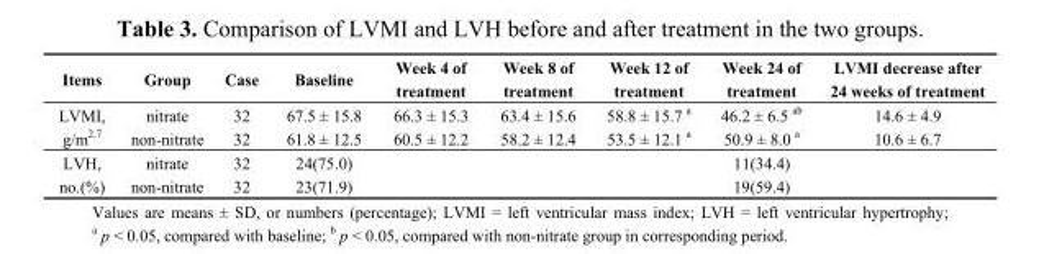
<table><thead><tr><td>Items</td><td>Group</td><td>Case</td><td>Baseline</td><td>Week 4 of treatment</td><td>Week 8 of treatment</td><td>Week 12 of treatment</td><td>Week 24 of treatment</td><td>LVMI decrease after 24 weeks of treatment</td></tr></thead><tbody><tr><td rowspan="2">LVMI, g/m<sup>2.7</sup></td><td>nitrate</td><td>32</td><td>67.5 ± 15.8</td><td>66.3 ± 15.3</td><td>63.4 ± 15.6</td><td>58.8 ± 15.7 a</td><td>46.2 ± 6.5 ab</td><td>14.6 ± 4.9</td></tr><tr><td>non-nitrate</td><td>32</td><td>61.8 ± 12.5</td><td>60.5 ± 12.2</td><td>58.2 ± 12.4</td><td>53.5 ± 12.1 a</td><td>50.9 ± 8.0 a</td><td>10.6 ± 6.7</td></tr><tr><td rowspan="2">LVH, no.(%)</td><td>nitrate</td><td>32</td><td>24(75.0)</td><td></td><td></td><td></td><td>11(34.4)</td><td></td></tr><tr><td>non-nitrate</td><td>32</td><td>23(71.9)</td><td></td><td></td><td></td><td>19(59.4)</td><td></td></tr></tbody></table>